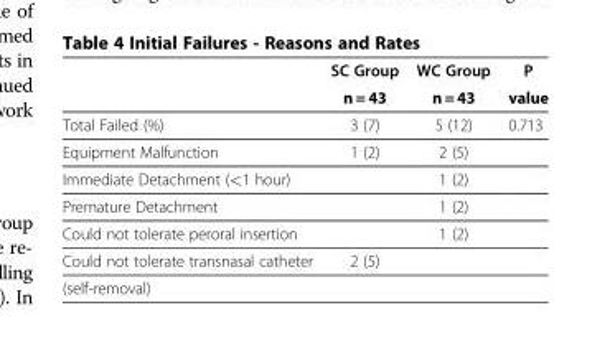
<table><thead><tr><td></td><td>SC Group</td><td>WC Group</td><td>P</td></tr></thead><tbody><tr><td></td><td>n = 43</td><td>n = 43</td><td>value</td></tr><tr><td>Total Failed (%)</td><td>3 (7)</td><td>5 (12)</td><td>0.713</td></tr><tr><td>Equipment Malfunction</td><td>1 (2)</td><td>2 (5)</td><td></td></tr><tr><td>Immediate Detachment (&lt;1 hour)</td><td></td><td>1 (2)</td><td></td></tr><tr><td>Premature Detachment</td><td></td><td>1 (2)</td><td></td></tr><tr><td>Could not tolerate peroral insertion</td><td></td><td>1 (2)</td><td></td></tr><tr><td>Could not tolerate transnasal catheter</td><td>2 (5)</td><td></td><td></td></tr><tr><td>(self-removal)</td><td></td><td></td><td></td></tr></tbody></table>